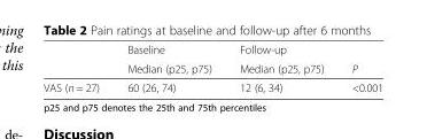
<table><thead><tr><td rowspan="2"></td><td rowspan="2">Baseline Median (p25, p75)</td><td rowspan="2">Follow-up Median (p25, p75)</td><td rowspan="2">P</td></tr><tr></tr></thead><tbody><tr><td>VAS (n = 27)</td><td>60 (26, 74)</td><td>12 (6, 34)</td><td>&lt;0.001</td></tr></tbody></table>